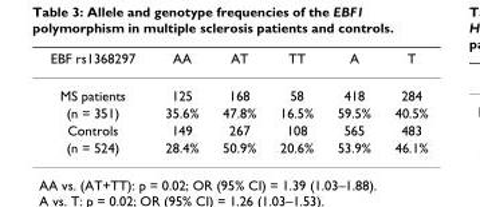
<table><thead><tr><td>EBF rs1368297</td><td>AA</td><td>AT</td><td>TT</td><td>A</td><td>T</td></tr></thead><tbody><tr><td>MS patients</td><td>125</td><td>168</td><td>58</td><td>418</td><td>284</td></tr><tr><td>(n = 351)</td><td>35.6%</td><td>47.8%</td><td>16.5%</td><td>59.5%</td><td>40.5%</td></tr><tr><td>Controls</td><td>149</td><td>267</td><td>108</td><td>565</td><td>483</td></tr><tr><td>(n = 524)</td><td>28.4%</td><td>50.9%</td><td>20.6%</td><td>53.9%</td><td>46.1%</td></tr></tbody></table>